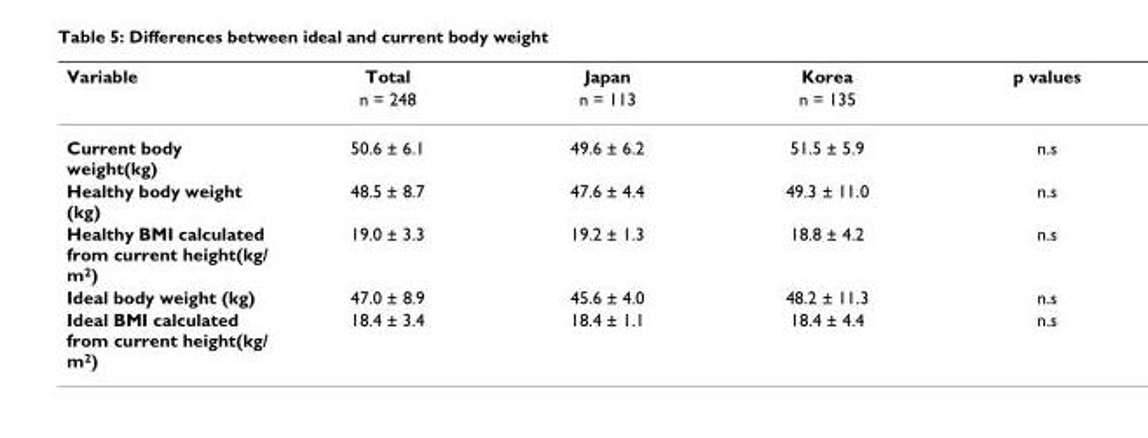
<table><thead><tr><td rowspan="2">Variable</td><td rowspan="2">Total n = 248</td><td rowspan="2">Japan n = 113</td><td rowspan="2">Korea n = 135</td><td rowspan="2">p values</td></tr><tr></tr></thead><tbody><tr><td>Current body weight(kg)</td><td>50.6 ± 6.1</td><td>49.6 ± 6.2</td><td>51.5 ± 5.9</td><td>n.s</td></tr><tr><td>Healthy body weight (kg)</td><td>48.5 ± 8.7</td><td>47.6 ± 4.4</td><td>49.3 ± 11.0</td><td>n.s</td></tr><tr><td>Healthy BMI calculated from current height(kg/ m2)</td><td>19.0 ± 3.3</td><td>19.2 ± 1.3</td><td>18.8 ± 4.2</td><td>n.s</td></tr><tr><td>Ideal body weight (kg)</td><td>47.0 ± 8.9</td><td>45.6 ± 4.0</td><td>48.2 ± 11.3</td><td>n.s</td></tr><tr><td>Ideal BMI calculated from current height(kg/ m2)</td><td>18.4 ± 3.4</td><td>18.4 ± 1.1</td><td>18.4 ± 4.4</td><td>n.s</td></tr></tbody></table>